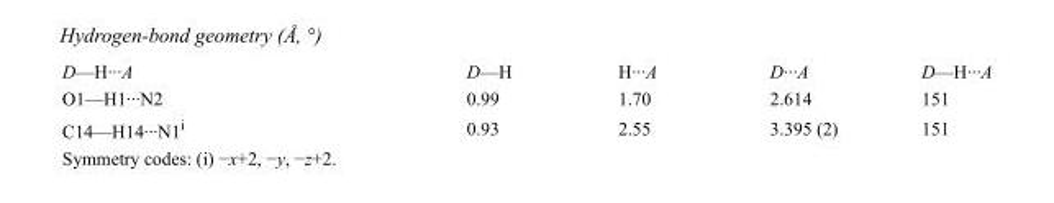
<table><tbody><tr><td>D—H···A</td><td>D—H</td><td>H···A</td><td>D···A</td><td>D—H···A</td></tr><tr><td>O1—H1···N2</td><td>0.99</td><td>1.70</td><td>2.614</td><td>151</td></tr><tr><td>C14—H14···N1<sup>i</sup></td><td>0.93</td><td>2.55</td><td>3.395 (2)</td><td>151</td></tr></tbody></table>